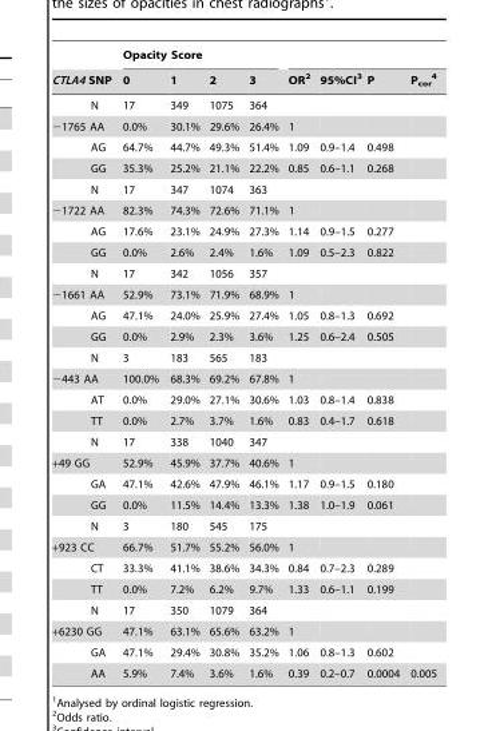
<table><thead><tr><td rowspan="2">CTLA4 SNP</td><td colspan="4">Opacity Score</td><td rowspan="2">OR<sup>2</sup></td><td rowspan="2">95%CI<sup>3</sup></td><td rowspan="2">P</td><td rowspan="2">P<sub>cor</sub> 4</td></tr><tr><td>0</td><td>1</td><td>2</td><td>3</td></tr></thead><tbody><tr><td>N</td><td>17</td><td>349</td><td>1075</td><td>364</td><td></td><td></td><td></td><td></td></tr><tr><td>−1765 AA</td><td>0.0%</td><td>30.1%</td><td>29.6%</td><td>26.4%</td><td>1</td><td></td><td></td><td></td></tr><tr><td>AG</td><td>64.7%</td><td>44.7%</td><td>49.3%</td><td>51.4%</td><td>1.09</td><td>0.9–1.4</td><td>0.498</td><td></td></tr><tr><td>GG</td><td>35.3%</td><td>25.2%</td><td>21.1%</td><td>22.2%</td><td>0.85</td><td>0.6–1.1</td><td>0.268</td><td></td></tr><tr><td>N</td><td>17</td><td>347</td><td>1074</td><td>363</td><td></td><td></td><td></td><td></td></tr><tr><td>−1722 AA</td><td>82.3%</td><td>74.3%</td><td>72.6%</td><td>71.1%</td><td>1</td><td></td><td></td><td></td></tr><tr><td>AG</td><td>17.6%</td><td>23.1%</td><td>24.9%</td><td>27.3%</td><td>1.14</td><td>0.9–1.5</td><td>0.277</td><td></td></tr><tr><td>GG</td><td>0.0%</td><td>2.6%</td><td>2.4%</td><td>1.6%</td><td>1.09</td><td>0.5–2.3</td><td>0.822</td><td></td></tr><tr><td>N</td><td>17</td><td>342</td><td>1056</td><td>357</td><td></td><td></td><td></td><td></td></tr><tr><td>−1661 AA</td><td>52.9%</td><td>73.1%</td><td>71.9%</td><td>68.9%</td><td>1</td><td></td><td></td><td></td></tr><tr><td>AG</td><td>47.1%</td><td>24.0%</td><td>25.9%</td><td>27.4%</td><td>1.05</td><td>0.8–1.3</td><td>0.692</td><td></td></tr><tr><td>GG</td><td>0.0%</td><td>2.9%</td><td>2.3%</td><td>3.6%</td><td>1.25</td><td>0.6–2.4</td><td>0.505</td><td></td></tr><tr><td>N</td><td>3</td><td>183</td><td>565</td><td>183</td><td></td><td></td><td></td><td></td></tr><tr><td>−443 AA</td><td>100.0%</td><td>68.3%</td><td>69.2%</td><td>67.8%</td><td>1</td><td></td><td></td><td></td></tr><tr><td>AT</td><td>0.0%</td><td>29.0%</td><td>27.1%</td><td>30.6%</td><td>1.03</td><td>0.8–1.4</td><td>0.838</td><td></td></tr><tr><td>TT</td><td>0.0%</td><td>2.7%</td><td>3.7%</td><td>1.6%</td><td>0.83</td><td>0.4–1.7</td><td>0.618</td><td></td></tr><tr><td>N</td><td>17</td><td>338</td><td>1040</td><td>347</td><td></td><td></td><td></td><td></td></tr><tr><td>+49 GG</td><td>52.9%</td><td>45.9%</td><td>37.7%</td><td>40.6%</td><td>1</td><td></td><td></td><td></td></tr><tr><td>GA</td><td>47.1%</td><td>42.6%</td><td>47.9%</td><td>46.1%</td><td>1.17</td><td>0.9–1.5</td><td>0.180</td><td></td></tr><tr><td>GG</td><td>0.0%</td><td>11.5%</td><td>14.4%</td><td>13.3%</td><td>1.38</td><td>1.0–1.9</td><td>0.061</td><td></td></tr><tr><td>N</td><td>3</td><td>180</td><td>545</td><td>175</td><td></td><td></td><td></td><td></td></tr><tr><td>+923 CC</td><td>66.7%</td><td>51.7%</td><td>55.2%</td><td>56.0%</td><td>1</td><td></td><td></td><td></td></tr><tr><td>CT</td><td>33.3%</td><td>41.1%</td><td>38.6%</td><td>34.3%</td><td>0.84</td><td>0.7–2.3</td><td>0.289</td><td></td></tr><tr><td>TT</td><td>0.0%</td><td>7.2%</td><td>6.2%</td><td>9.7%</td><td>1.33</td><td>0.6–1.1</td><td>0.199</td><td></td></tr><tr><td>N</td><td>17</td><td>350</td><td>1079</td><td>364</td><td></td><td></td><td></td><td></td></tr><tr><td>+6230 GG</td><td>47.1%</td><td>63.1%</td><td>65.6%</td><td>63.2%</td><td>1</td><td></td><td></td><td></td></tr><tr><td>GA</td><td>47.1%</td><td>29.4%</td><td>30.8%</td><td>35.2%</td><td>1.06</td><td>0.8–1.3</td><td>0.602</td><td></td></tr><tr><td>AA</td><td>5.9%</td><td>7.4%</td><td>3.6%</td><td>1.6%</td><td>0.39</td><td>0.2–0.7</td><td>0.0004</td><td>0.005</td></tr></tbody></table>